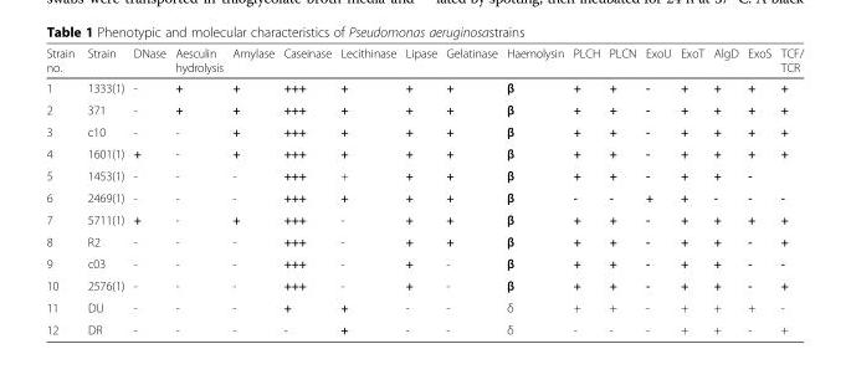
<table><thead><tr><td>Strain no.</td><td>Strain</td><td>DNase</td><td>Aesculin hydrolysis</td><td>Amylase</td><td>Caseinase</td><td>Lecithinase</td><td>Lipase</td><td>Gelatinase</td><td>Haemolysin</td><td>PLCH</td><td>PLCN</td><td>ExoU</td><td>ExoT</td><td>AlgD</td><td>ExoS</td><td>TCF/ TCR</td></tr></thead><tbody><tr><td>1</td><td>1333(1)</td><td>-</td><td>+</td><td>+</td><td>+++</td><td>+</td><td>+</td><td>+</td><td>β</td><td>+</td><td>+</td><td>-</td><td>+</td><td>+</td><td>+</td><td>+</td></tr><tr><td>2</td><td>371</td><td>-</td><td>+</td><td>+</td><td>+++</td><td>+</td><td>+</td><td>+</td><td>β</td><td>+</td><td>+</td><td>-</td><td>+</td><td>+</td><td>+</td><td>+</td></tr><tr><td>3</td><td>c10</td><td>-</td><td>-</td><td>+</td><td>+++</td><td>+</td><td>+</td><td>+</td><td>β</td><td>+</td><td>+</td><td>-</td><td>+</td><td>+</td><td>+</td><td>+</td></tr><tr><td>4</td><td>1601(1)</td><td>+</td><td>-</td><td>+</td><td>+++</td><td>+</td><td>+</td><td>+</td><td>β</td><td>+</td><td>+</td><td>-</td><td>+</td><td>+</td><td>+</td><td>+</td></tr><tr><td>5</td><td>1453(1)</td><td>-</td><td>-</td><td>-</td><td>+++</td><td>+</td><td>+</td><td>+</td><td>β</td><td>+</td><td>+</td><td>-</td><td>+</td><td>+</td><td>-</td><td></td></tr><tr><td>6</td><td>2469(1)</td><td>-</td><td>-</td><td>-</td><td>+++</td><td>+</td><td>+</td><td>+</td><td>β</td><td>-</td><td>-</td><td>+</td><td>+</td><td>-</td><td>-</td><td>-</td></tr><tr><td>7</td><td>5711(1)</td><td>+</td><td>-</td><td>+</td><td>+++</td><td>-</td><td>+</td><td>+</td><td>β</td><td>+</td><td>+</td><td>-</td><td>+</td><td>+</td><td>+</td><td>+</td></tr><tr><td>8</td><td>R2</td><td>-</td><td>-</td><td>-</td><td>+++</td><td>-</td><td>+</td><td>+</td><td>β</td><td>+</td><td>+</td><td>-</td><td>+</td><td>+</td><td>-</td><td>+</td></tr><tr><td>9</td><td>c03</td><td>-</td><td>-</td><td>-</td><td>+++</td><td>-</td><td>+</td><td>-</td><td>β</td><td>+</td><td>+</td><td>-</td><td>+</td><td>+</td><td>-</td><td>-</td></tr><tr><td>10</td><td>2576(1)</td><td>-</td><td>-</td><td>-</td><td>+++</td><td>-</td><td>+</td><td>-</td><td>β</td><td>+</td><td>+</td><td>-</td><td>+</td><td>+</td><td>-</td><td>+</td></tr><tr><td>11</td><td>DU</td><td>-</td><td>-</td><td>-</td><td>+</td><td>+</td><td>-</td><td>-</td><td>δ</td><td>+</td><td>+</td><td>-</td><td>+</td><td>+</td><td>+</td><td>-</td></tr><tr><td>12</td><td>DR</td><td>-</td><td>-</td><td>-</td><td>-</td><td>+</td><td>-</td><td>-</td><td>δ</td><td>-</td><td>-</td><td>-</td><td>+</td><td>+</td><td>-</td><td>+</td></tr></tbody></table>